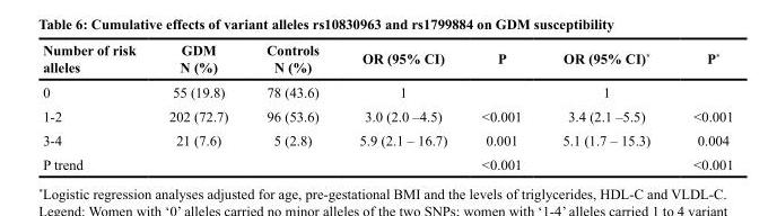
<table><thead><tr><td>Number of risk alleles</td><td>GDM N (%)</td><td>Controls N (%)</td><td>OR (95% CI)</td><td>P</td><td>OR (95% CI)*</td><td>P*</td></tr></thead><tbody><tr><td>0</td><td>55 (19.8)</td><td>78 (43.6)</td><td>1</td><td></td><td>1</td><td></td></tr><tr><td>1-2</td><td>202 (72.7)</td><td>96 (53.6)</td><td>3.0 (2.0 –4.5)</td><td>&lt;0.001</td><td>3.4 (2.1 –5.5)</td><td>&lt;0.001</td></tr><tr><td>3-4</td><td>21 (7.6)</td><td>5 (2.8)</td><td>5.9 (2.1 – 16.7)</td><td>0.001</td><td>5.1 (1.7 – 15.3)</td><td>0.004</td></tr><tr><td>P trend</td><td></td><td></td><td></td><td>&lt;0.001</td><td></td><td>&lt;0.001</td></tr></tbody></table>